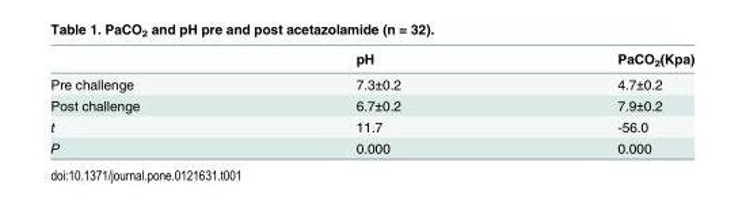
<table><thead><tr><td></td><td>pH</td><td>PaCO<sub>2</sub>(Kpa)</td></tr></thead><tbody><tr><td>Pre challenge</td><td>7.3±0.2</td><td>4.7±0.2</td></tr><tr><td>Post challenge</td><td>6.7±0.2</td><td>7.9±0.2</td></tr><tr><td>t</td><td>11.7</td><td>-56.0</td></tr><tr><td>P</td><td>0.000</td><td>0.000</td></tr></tbody></table>